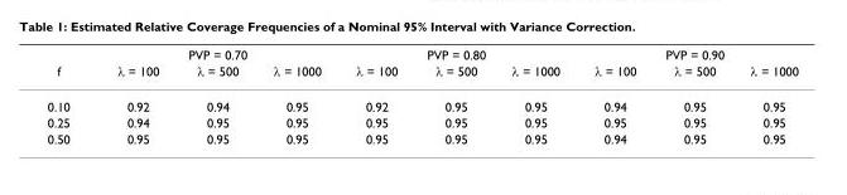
<table><thead><tr><td rowspan="2">f</td><td colspan="3">PVP = 0.70</td><td colspan="3">PVP = 0.80</td><td colspan="3">PVP = 0.90</td></tr><tr><td>λ = 100</td><td>λ = 500</td><td>λ = 1000</td><td>λ = 100</td><td>λ = 500</td><td>λ = 1000</td><td>λ = 100</td><td>λ = 500</td><td>λ = 1000</td></tr></thead><tbody><tr><td>0.10</td><td>0.92</td><td>0.94</td><td>0.95</td><td>0.92</td><td>0.95</td><td>0.95</td><td>0.94</td><td>0.95</td><td>0.95</td></tr><tr><td>0.25</td><td>0.94</td><td>0.95</td><td>0.95</td><td>0.95</td><td>0.95</td><td>0.95</td><td>0.95</td><td>0.95</td><td>0.95</td></tr><tr><td>0.50</td><td>0.95</td><td>0.95</td><td>0.95</td><td>0.95</td><td>0.95</td><td>0.95</td><td>0.94</td><td>0.95</td><td>0.95</td></tr></tbody></table>